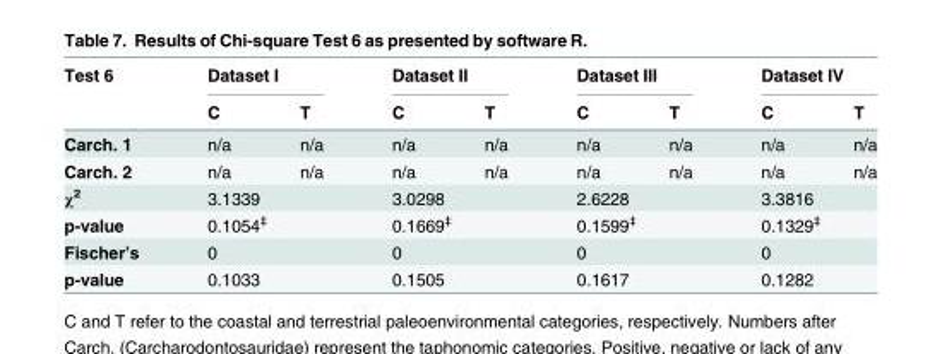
<table><thead><tr><td rowspan="2">Test 6</td><td colspan="2">Dataset I</td><td colspan="2">Dataset II</td><td colspan="2">Dataset III</td><td colspan="2">Dataset IV</td></tr><tr><td>C</td><td>T</td><td>C</td><td>T</td><td>C</td><td>T</td><td>C</td><td>T</td></tr></thead><tbody><tr><td>Carch. 1</td><td>n/a</td><td>n/a</td><td>n/a</td><td>n/a</td><td>n/a</td><td>n/a</td><td>n/a</td><td>n/a</td></tr><tr><td>Carch. 2</td><td>n/a</td><td>n/a</td><td>n/a</td><td>n/a</td><td>n/a</td><td>n/a</td><td>n/a</td><td>n/a</td></tr><tr><td>χ<sup>2</sup></td><td colspan="2">3.1339</td><td colspan="2">3.0298</td><td colspan="2">2.6228</td><td colspan="2">3.3816</td></tr><tr><td>p-value</td><td colspan="2">0.1054<sup>‡</sup></td><td colspan="2">0.1669<sup>‡</sup></td><td colspan="2">0.1599<sup>‡</sup></td><td colspan="2">0.1329<sup>‡</sup></td></tr><tr><td>Fischer’s</td><td colspan="2">0</td><td colspan="2">0</td><td colspan="2">0</td><td colspan="2">0</td></tr><tr><td>p-value</td><td colspan="2">0.1033</td><td colspan="2">0.1505</td><td colspan="2">0.1617</td><td colspan="2">0.1282</td></tr></tbody></table>